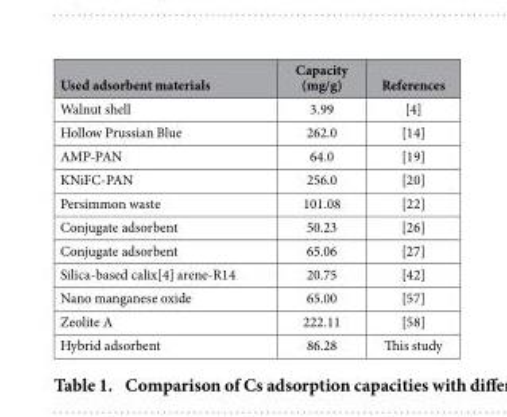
<table><thead><tr><td>Used adsorbent materials</td><td>Capacity (mg/g)</td><td>References</td></tr></thead><tbody><tr><td>Walnut shell</td><td>3.99</td><td>[4]</td></tr><tr><td>Hollow Prussian Blue</td><td>262.0</td><td>[14]</td></tr><tr><td>AMP-PAN</td><td>64.0</td><td>[19]</td></tr><tr><td>KNiFC-PAN</td><td>256.0</td><td>[20]</td></tr><tr><td>Persimmon waste</td><td>101.08</td><td>[22]</td></tr><tr><td>Conjugate adsorbent</td><td>50.23</td><td>[26]</td></tr><tr><td>Conjugate adsorbent</td><td>65.06</td><td>[27]</td></tr><tr><td>Silica-based calix[4] arene-R14</td><td>20.75</td><td>[42]</td></tr><tr><td>Nano manganese oxide</td><td>65.00</td><td>[57]</td></tr><tr><td>Zeolite A</td><td>222.11</td><td>[58]</td></tr><tr><td>Hybrid adsorbent</td><td>86.28</td><td>This study</td></tr></tbody></table>